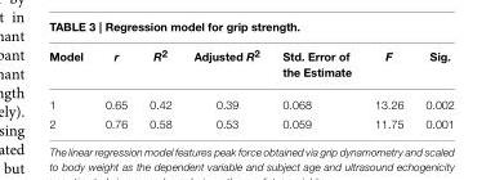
<table><thead><tr><td>Model</td><td>r</td><td>R<sup>2</sup></td><td>Adjusted R<sup>2</sup></td><td>Std. Error of the Estimate</td><td>F</td><td>Sig.</td></tr></thead><tbody><tr><td>1</td><td>0.65</td><td>0.42</td><td>0.39</td><td>0.068</td><td>13.26</td><td>0.002</td></tr><tr><td>2</td><td>0.76</td><td>0.58</td><td>0.53</td><td>0.059</td><td>11.75</td><td>0.001</td></tr></tbody></table>